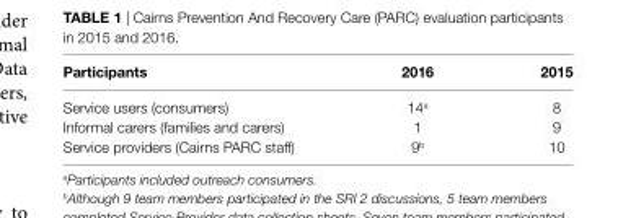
<table><thead><tr><td>Participants</td><td>2016</td><td>2015</td></tr></thead><tbody><tr><td>Service users (consumers)</td><td>14<sup>a</sup></td><td>8</td></tr><tr><td>Informal carers (families and carers)</td><td>1</td><td>9</td></tr><tr><td>Service providers (Cairns PARC staff)</td><td>9<sup>b</sup></td><td>10</td></tr></tbody></table>